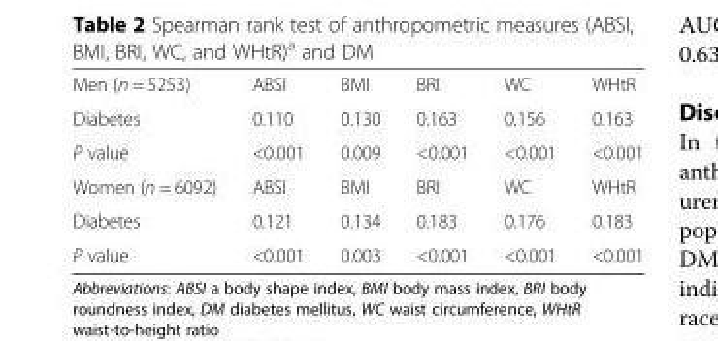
<table><tbody><tr><td>Men (n = 5253)</td><td>ABSI</td><td>BMI</td><td>BRI</td><td>WC</td><td>WHtR</td></tr><tr><td>Diabetes</td><td>0.110</td><td>0.130</td><td>0.163</td><td>0.156</td><td>0.163</td></tr><tr><td>P value</td><td>&lt;0.001</td><td>0.009</td><td>&lt;0.001</td><td>&lt;0.001</td><td>&lt;0.001</td></tr><tr><td>Women (n = 6092)</td><td>ABSI</td><td>BMI</td><td>BRI</td><td>WC</td><td>WHtR</td></tr><tr><td>Diabetes</td><td>0.121</td><td>0.134</td><td>0.183</td><td>0.176</td><td>0.183</td></tr><tr><td>P value</td><td>&lt;0.001</td><td>0.003</td><td>&lt;0.001</td><td>&lt;0.001</td><td>&lt;0.001</td></tr></tbody></table>